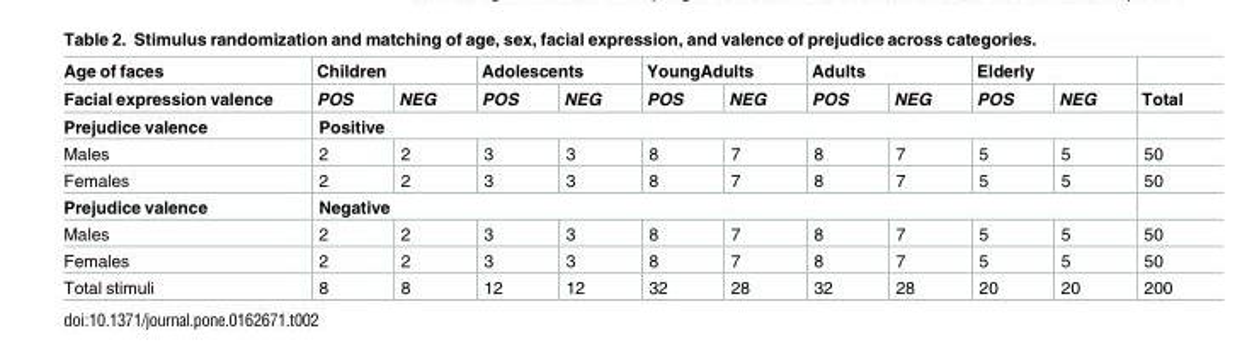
<table><thead><tr><td rowspan="2">Age of faces Facial expression valence</td><td colspan="2">Children</td><td colspan="2">Adolescents</td><td colspan="2">YoungAdults</td><td colspan="2">Adults</td><td colspan="2">Elderly</td><td rowspan="2">Total</td></tr><tr><td>POS</td><td>NEG</td><td>POS</td><td>NEG</td><td>POS</td><td>NEG</td><td>POS</td><td>NEG</td><td>POS</td><td>NEG</td></tr></thead><tbody><tr><td>Prejudice valence</td><td colspan="10">Positive</td><td></td></tr><tr><td>Males</td><td>2</td><td>2</td><td>3</td><td>3</td><td>8</td><td>7</td><td>8</td><td>7</td><td>5</td><td>5</td><td>50</td></tr><tr><td>Females</td><td>2</td><td>2</td><td>3</td><td>3</td><td>8</td><td>7</td><td>8</td><td>7</td><td>5</td><td>5</td><td>50</td></tr><tr><td>Prejudice valence</td><td colspan="10">Negative</td><td></td></tr><tr><td>Males</td><td>2</td><td>2</td><td>3</td><td>3</td><td>8</td><td>7</td><td>8</td><td>7</td><td>5</td><td>5</td><td>50</td></tr><tr><td>Females</td><td>2</td><td>2</td><td>3</td><td>3</td><td>8</td><td>7</td><td>8</td><td>7</td><td>5</td><td>5</td><td>50</td></tr><tr><td>Total stimuli</td><td>8</td><td>8</td><td>12</td><td>12</td><td>32</td><td>28</td><td>32</td><td>28</td><td>20</td><td>20</td><td>200</td></tr></tbody></table>